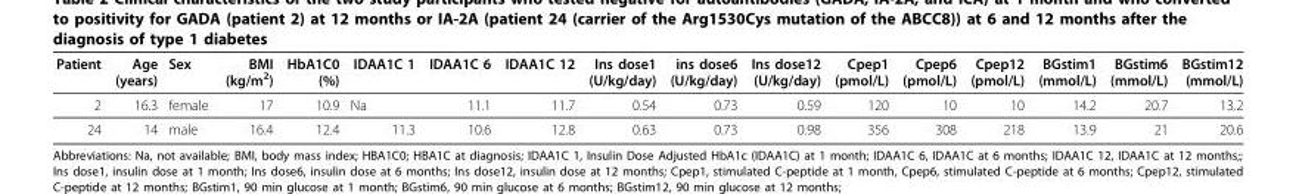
<table><thead><tr><td>Patient</td><td>Age (years)</td><td>Sex</td><td>BMI (kg/m<sup>2</sup>)</td><td>HbA1C0 (%)</td><td>IDAA1C 1</td><td>IDAA1C 6</td><td>IDAA1C 12</td><td>Ins dose1 (U/kg/day)</td><td>ins dose6 (U/kg/day)</td><td>Ins dose12 (U/kg/day)</td><td>Cpep1 (pmol/L)</td><td>Cpep6 (pmol/L)</td><td>Cpep12 (pmol/L)</td><td>BGstim1 (mmol/L)</td><td>BGstim6 (mmol/L)</td><td>BGstim12 (mmol/L)</td></tr></thead><tbody><tr><td>2</td><td>16.3</td><td>female</td><td>17</td><td>10.9</td><td>Na</td><td>11.1</td><td>11.7</td><td>0.54</td><td>0.73</td><td>0.59</td><td>120</td><td>10</td><td>10</td><td>14.2</td><td>20.7</td><td>13.2</td></tr><tr><td>24</td><td>14</td><td>male</td><td>16.4</td><td>12.4</td><td>11.3</td><td>10.6</td><td>12.8</td><td>0.63</td><td>0.73</td><td>0.98</td><td>356</td><td>308</td><td>218</td><td>13.9</td><td>21</td><td>20.6</td></tr></tbody></table>